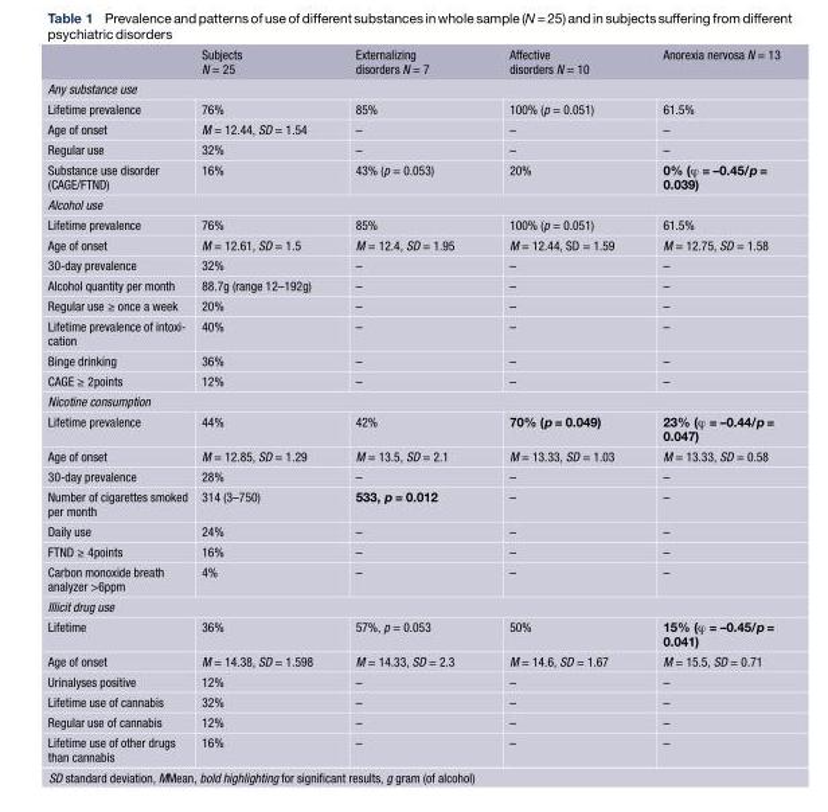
<table><thead><tr><td></td><td>Subjects N = 25</td><td>Externalizing disorders N = 7</td><td>Affective disorders N = 10</td><td>Anorexia nervosa N = 13</td></tr></thead><tbody><tr><td colspan="5">Any substance use</td></tr><tr><td>Lifetime prevalence</td><td>76%</td><td>85%</td><td>100% (p = 0.051)</td><td>61.5%</td></tr><tr><td>Age of onset</td><td>M = 12.44, SD = 1.54</td><td>–</td><td>–</td><td>–</td></tr><tr><td>Regular use</td><td>32%</td><td>–</td><td>–</td><td>–</td></tr><tr><td>Substance use disorder (CAGE/FTND)</td><td>16%</td><td>43% (p = 0.053)</td><td>20%</td><td>0% (φ = –0.45/p = 0.039)</td></tr><tr><td colspan="5">Alcohol use</td></tr><tr><td>Lifetime prevalence</td><td>76%</td><td>85%</td><td>100% (p = 0.051)</td><td>61.5%</td></tr><tr><td>Age of onset</td><td>M = 12.61, SD = 1.5</td><td>M = 12.4, SD = 1.95</td><td>M = 12.44, SD = 1.59</td><td>M = 12.75, SD = 1.58</td></tr><tr><td>30-day prevalence</td><td>32%</td><td>–</td><td>–</td><td>–</td></tr><tr><td>Alcohol quantity per month</td><td>88.7g (range 12–192g)</td><td>–</td><td>–</td><td>–</td></tr><tr><td>Regular use ≥ once a week</td><td>20%</td><td>–</td><td>–</td><td>–</td></tr><tr><td>Lifetime prevalence of intoxi- cation</td><td>40%</td><td>–</td><td>–</td><td>–</td></tr><tr><td>Binge drinking</td><td>36%</td><td>–</td><td>–</td><td>–</td></tr><tr><td>CAGE ≥ 2points</td><td>12%</td><td>–</td><td>–</td><td>–</td></tr><tr><td colspan="5">Nicotine consumption</td></tr><tr><td>Lifetime prevalence</td><td>44%</td><td>42%</td><td>70% (p = 0.049)</td><td>23% (φ = –0.44/p = 0.047)</td></tr><tr><td>Age of onset</td><td>M = 12.85, SD = 1.29</td><td>M = 13.5, SD = 2.1</td><td>M = 13.33, SD = 1.03</td><td>M = 13.33, SD = 0.58</td></tr><tr><td>30-day prevalence</td><td>28%</td><td>–</td><td>–</td><td>–</td></tr><tr><td>Number of cigarettes smoked per month</td><td>314 (3–750)</td><td>533, p = 0.012</td><td>–</td><td>–</td></tr><tr><td>Daily use</td><td>24%</td><td>–</td><td>–</td><td>–</td></tr><tr><td>FTND ≥ 4points</td><td>16%</td><td>–</td><td>–</td><td>–</td></tr><tr><td>Carbon monoxide breath analyzer &gt;6ppm</td><td>4%</td><td>–</td><td>–</td><td>–</td></tr><tr><td colspan="5">Illicit drug use</td></tr><tr><td>Lifetime</td><td>36%</td><td>57%, p = 0.053</td><td>50%</td><td>15% (φ = –0.45/p = 0.041)</td></tr><tr><td>Age of onset</td><td>M = 14.38, SD = 1.598</td><td>M = 14.33, SD = 2.3</td><td>M = 14.6, SD = 1.67</td><td>M = 15.5, SD = 0.71</td></tr><tr><td>Urinalyses positive</td><td>12%</td><td>–</td><td>–</td><td>–</td></tr><tr><td>Lifetime use of cannabis</td><td>32%</td><td>–</td><td>–</td><td>–</td></tr><tr><td>Regular use of cannabis</td><td>12%</td><td>–</td><td>–</td><td>–</td></tr><tr><td>Lifetime use of other drugs than cannabis</td><td>16%</td><td>–</td><td>–</td><td>–</td></tr></tbody></table>